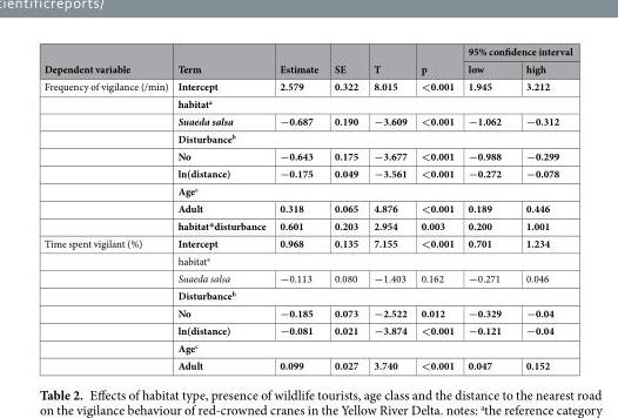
<table><thead><tr><td rowspan="2">Dependent variable</td><td rowspan="2">Term</td><td rowspan="2">Estimate</td><td rowspan="2">SE</td><td rowspan="2">T</td><td rowspan="2">p</td><td colspan="2">95% confidence interval</td></tr><tr><td>low</td><td>high</td></tr></thead><tbody><tr><td rowspan="9">Frequency of vigilance (/min)</td><td>Intercept</td><td>2.579</td><td>0.322</td><td>8.015</td><td>&lt;0.001</td><td>1.945</td><td>3.212</td></tr><tr><td colspan="7">habitat<sup>a</sup></td></tr><tr><td>Suaeda salsa</td><td>−0.687</td><td>0.190</td><td>−3.609</td><td>&lt;0.001</td><td>−1.062</td><td>−0.312</td></tr><tr><td colspan="7">Disturbance<sup>b</sup></td></tr><tr><td>No</td><td>−0.643</td><td>0.175</td><td>−3.677</td><td>&lt;0.001</td><td>−0.988</td><td>−0.299</td></tr><tr><td>ln(distance)</td><td>−0.175</td><td>0.049</td><td>−3.561</td><td>&lt;0.001</td><td>−0.272</td><td>−0.078</td></tr><tr><td colspan="7">Age<sup>c</sup></td></tr><tr><td>Adult</td><td>0.318</td><td>0.065</td><td>4.876</td><td>&lt;0.001</td><td>0.189</td><td>0.446</td></tr><tr><td>habitat*disturbance</td><td>0.601</td><td>0.203</td><td>2.954</td><td>0.003</td><td>0.200</td><td>1.001</td></tr><tr><td rowspan="8">Time spent vigilant (%)</td><td>Intercept</td><td>0.968</td><td>0.135</td><td>7.155</td><td>&lt;0.001</td><td>0.701</td><td>1.234</td></tr><tr><td colspan="7">habitat<sup>a</sup></td></tr><tr><td>Suaeda salsa</td><td>−0.113</td><td>0.080</td><td>−1.403</td><td>0.162</td><td>−0.271</td><td>0.046</td></tr><tr><td colspan="7">Disturbance<sup>b</sup></td></tr><tr><td>No</td><td>−0.185</td><td>0.073</td><td>−2.522</td><td>0.012</td><td>−0.329</td><td>−0.04</td></tr><tr><td>ln(distance)</td><td>−0.081</td><td>0.021</td><td>−3.874</td><td>&lt;0.001</td><td>−0.121</td><td>−0.04</td></tr><tr><td colspan="7">Age<sup>c</sup></td></tr><tr><td>Adult</td><td>0.099</td><td>0.027</td><td>3.740</td><td>&lt;0.001</td><td>0.047</td><td>0.152</td></tr></tbody></table>